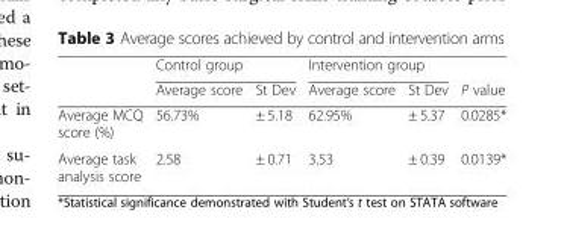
<table><thead><tr><td rowspan="2"></td><td colspan="2">Control group</td><td colspan="2">Intervention group</td><td rowspan="2">P value</td></tr><tr><td>Average score</td><td>St Dev</td><td>Average score</td><td>St Dev</td></tr></thead><tbody><tr><td>Average MCQ score (%)</td><td>56.73%</td><td>± 5.18</td><td>62.95%</td><td>± 5.37</td><td>0.0285*</td></tr><tr><td>Average task analysis score</td><td>2.58</td><td>± 0.71</td><td>3.53</td><td>± 0.39</td><td>0.0139*</td></tr></tbody></table>